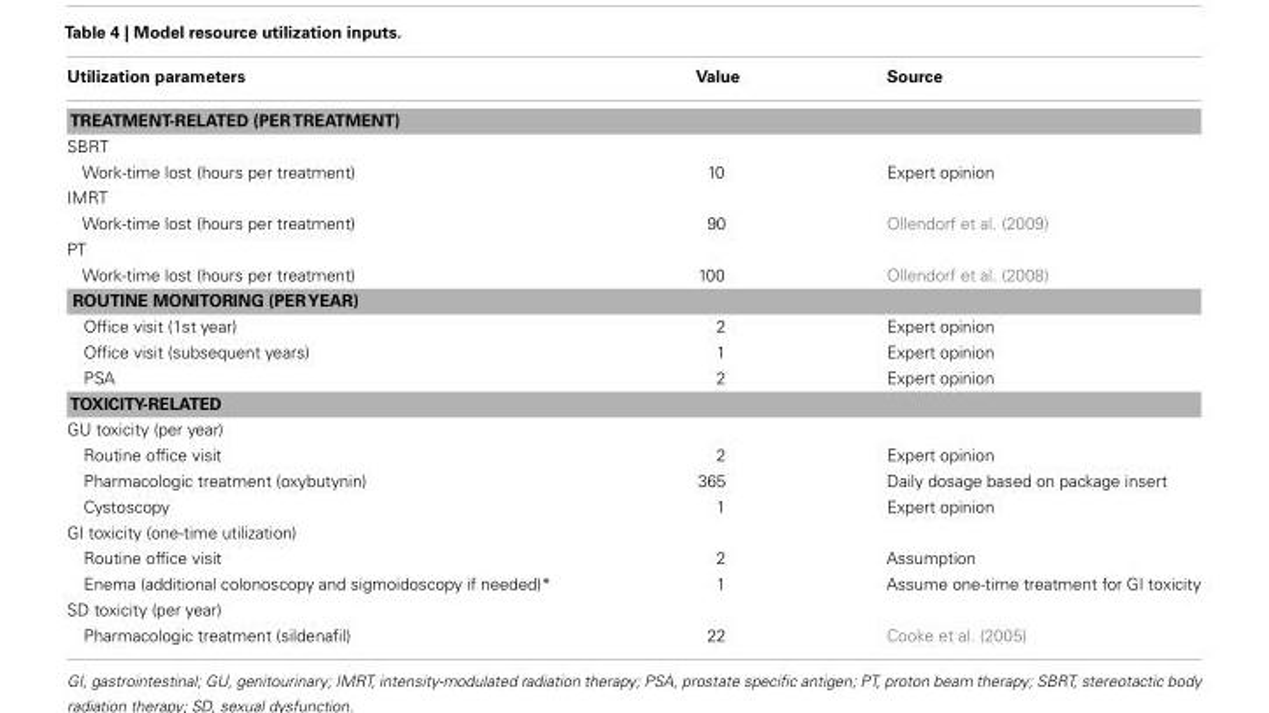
<table><thead><tr><td>Utilization parameters</td><td>Value</td><td>Source</td></tr></thead><tbody><tr><td colspan="3">TREATMENT-RELATED (PERTREATMENT)</td></tr><tr><td colspan="3">SBRT</td></tr><tr><td>Work-time lost (hours per treatment)</td><td>10</td><td>Expert opinion</td></tr><tr><td colspan="3">IMRT</td></tr><tr><td>Work-time lost (hours per treatment)</td><td>90</td><td>Ollendorf et al. (2009)</td></tr><tr><td colspan="3">PT</td></tr><tr><td>Work-time lost (hours per treatment)</td><td>100</td><td>Ollendorf et al. (2008)</td></tr><tr><td colspan="3">ROUTINE MONITORING (PERYEAR)</td></tr><tr><td>Office visit (1st year)</td><td>2</td><td>Expert opinion</td></tr><tr><td>Office visit (subsequent years)</td><td>1</td><td>Expert opinion</td></tr><tr><td>PSA</td><td>2</td><td>Expert opinion</td></tr><tr><td colspan="3">TOXICITY-RELATED</td></tr><tr><td colspan="3">GU toxicity (per year)</td></tr><tr><td>Routine office visit</td><td>2</td><td>Expert opinion</td></tr><tr><td>Pharmacologic treatment (oxybutynin)</td><td>365</td><td>Daily dosage based on package insert</td></tr><tr><td>Cystoscopy</td><td>1</td><td>Expert opinion</td></tr><tr><td colspan="3">GI toxicity (one-time utilization)</td></tr><tr><td>Routine office visit</td><td>2</td><td>Assumption</td></tr><tr><td>Enema (additional colonoscopy and sigmoidoscopy if needed)*</td><td>1</td><td>Assume one-time treatment for GI toxicity</td></tr><tr><td colspan="3">SD toxicity (per year)</td></tr><tr><td>Pharmacologic treatment (sildenafil)</td><td>22</td><td>Cooke et al. (2005)</td></tr></tbody></table>